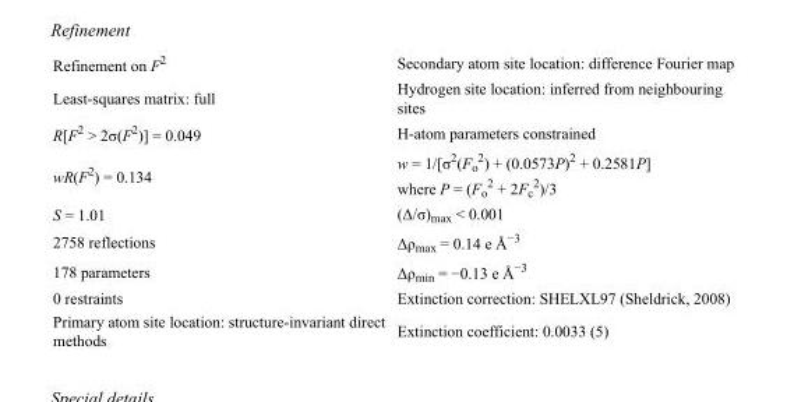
<table><tbody><tr><td>Refinement on F<sup>2</sup></td><td>Secondary atom site location: difference Fourier map</td></tr><tr><td>Least-squares matrix: full</td><td>Hydrogen site location: inferred from neighbouring sites</td></tr><tr><td>R[F<sup>2</sup> &gt; 2σ(F<sup>2</sup>)] = 0.049</td><td>H-atom parameters constrained</td></tr><tr><td>wR(F<sup>2</sup>) = 0.134</td><td>w = 1/[σ<sup>2</sup>(F<sub>o</sub> <sup>2</sup>) + (0.0573P)<sup>2</sup> + 0.2581P] where P = (F<sub>o</sub> <sup>2</sup> + 2F<sub>c</sub> <sup>2</sup>)/3</td></tr><tr><td>S = 1.01</td><td>(Δ/σ)<sub>max</sub> &lt; 0.001</td></tr><tr><td>2758 reflections</td><td>Δρ<sub>max</sub> = 0.14 e Å<sup>−3</sup></td></tr><tr><td>178 parameters</td><td>Δρ<sub>min</sub> = −0.13 e Å<sup>−3</sup></td></tr><tr><td>0 restraints</td><td>Extinction correction: SHELXL97 (Sheldrick, 2008)</td></tr><tr><td>Primary atom site location: structure-invariant direct methods</td><td>Extinction coefficient: 0.0033 (5)</td></tr></tbody></table>